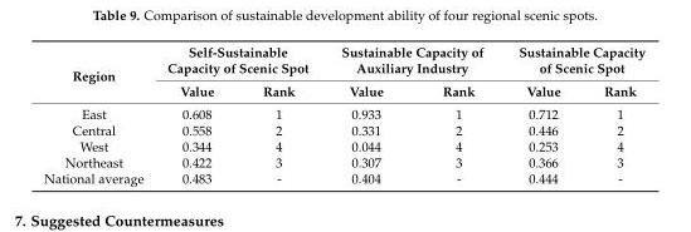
<table><thead><tr><td rowspan="2">Region</td><td colspan="2">Self-Sustainable Capacity of Scenic Spot</td><td colspan="2">Sustainable Capacity of Auxiliary Industry</td><td colspan="2">Sustainable Capacity of Scenic Spot</td></tr><tr><td>Value</td><td>Rank</td><td>Value</td><td>Rank</td><td>Value</td><td>Rank</td></tr></thead><tbody><tr><td>East</td><td>0.608</td><td>1</td><td>0.933</td><td>1</td><td>0.712</td><td>1</td></tr><tr><td>Central</td><td>0.558</td><td>2</td><td>0.331</td><td>2</td><td>0.446</td><td>2</td></tr><tr><td>West</td><td>0.344</td><td>4</td><td>0.044</td><td>4</td><td>0.253</td><td>4</td></tr><tr><td>Northeast</td><td>0.422</td><td>3</td><td>0.307</td><td>3</td><td>0.366</td><td>3</td></tr><tr><td>National average</td><td>0.483</td><td>-</td><td>0.404</td><td>-</td><td>0.444</td><td>-</td></tr></tbody></table>